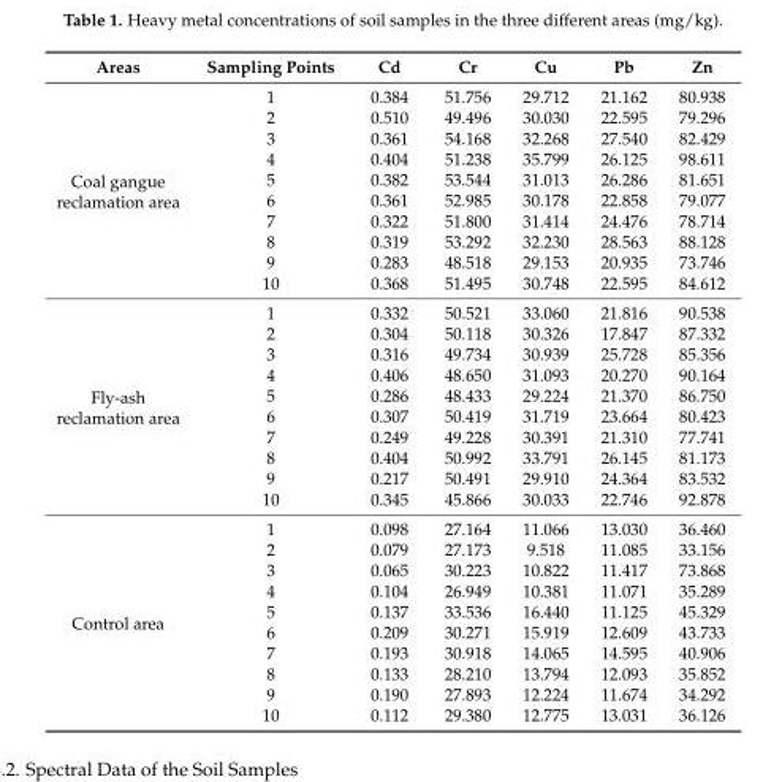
<table><thead><tr><td>Areas</td><td>Sampling Points</td><td>Cd</td><td>Cr</td><td>Cu</td><td>Pb</td><td>Zn</td></tr></thead><tbody><tr><td rowspan="10">Coal gangue reclamation area</td><td>1</td><td>0.384</td><td>51.756</td><td>29.712</td><td>21.162</td><td>80.938</td></tr><tr><td>2</td><td>0.510</td><td>49.496</td><td>30.030</td><td>22.595</td><td>79.296</td></tr><tr><td>3</td><td>0.361</td><td>54.168</td><td>32.268</td><td>27.540</td><td>82.429</td></tr><tr><td>4</td><td>0.404</td><td>51.238</td><td>35.799</td><td>26.125</td><td>98.611</td></tr><tr><td>5</td><td>0.382</td><td>53.544</td><td>31.013</td><td>26.286</td><td>81.651</td></tr><tr><td>6</td><td>0.361</td><td>52.985</td><td>30.178</td><td>22.858</td><td>79.077</td></tr><tr><td>7</td><td>0.322</td><td>51.800</td><td>31.414</td><td>24.476</td><td>78.714</td></tr><tr><td>8</td><td>0.319</td><td>53.292</td><td>32.230</td><td>28.563</td><td>88.128</td></tr><tr><td>9</td><td>0.283</td><td>48.518</td><td>29.153</td><td>20.935</td><td>73.746</td></tr><tr><td>10</td><td>0.368</td><td>51.495</td><td>30.748</td><td>22.595</td><td>84.612</td></tr><tr><td rowspan="10">Fly-ash reclamation area</td><td>1</td><td>0.332</td><td>50.521</td><td>33.060</td><td>21.816</td><td>90.538</td></tr><tr><td>2</td><td>0.304</td><td>50.118</td><td>30.326</td><td>17.847</td><td>87.332</td></tr><tr><td>3</td><td>0.316</td><td>49.734</td><td>30.939</td><td>25.728</td><td>85.356</td></tr><tr><td>4</td><td>0.406</td><td>48.650</td><td>31.093</td><td>20.270</td><td>90.164</td></tr><tr><td>5</td><td>0.286</td><td>48.433</td><td>29.224</td><td>21.370</td><td>86.750</td></tr><tr><td>6</td><td>0.307</td><td>50.419</td><td>31.719</td><td>23.664</td><td>80.423</td></tr><tr><td>7</td><td>0.249</td><td>49.228</td><td>30.391</td><td>21.310</td><td>77.741</td></tr><tr><td>8</td><td>0.404</td><td>50.992</td><td>33.791</td><td>26.145</td><td>81.173</td></tr><tr><td>9</td><td>0.217</td><td>50.491</td><td>29.910</td><td>24.364</td><td>83.532</td></tr><tr><td>10</td><td>0.345</td><td>45.866</td><td>30.033</td><td>22.746</td><td>92.878</td></tr><tr><td rowspan="10">Control area</td><td>1</td><td>0.098</td><td>27.164</td><td>11.066</td><td>13.030</td><td>36.460</td></tr><tr><td>2</td><td>0.079</td><td>27.173</td><td>9.518</td><td>11.085</td><td>33.156</td></tr><tr><td>3</td><td>0.065</td><td>30.223</td><td>10.822</td><td>11.417</td><td>73.868</td></tr><tr><td>4</td><td>0.104</td><td>26.949</td><td>10.381</td><td>11.071</td><td>35.289</td></tr><tr><td>5</td><td>0.137</td><td>33.536</td><td>16.440</td><td>11.125</td><td>45.329</td></tr><tr><td>6</td><td>0.209</td><td>30.271</td><td>15.919</td><td>12.609</td><td>43.733</td></tr><tr><td>7</td><td>0.193</td><td>30.918</td><td>14.065</td><td>14.595</td><td>40.906</td></tr><tr><td>8</td><td>0.133</td><td>28.210</td><td>13.794</td><td>12.093</td><td>35.852</td></tr><tr><td>9</td><td>0.190</td><td>27.893</td><td>12.224</td><td>11.674</td><td>34.292</td></tr><tr><td>10</td><td>0.112</td><td>29.380</td><td>12.775</td><td>13.031</td><td>36.126</td></tr></tbody></table>